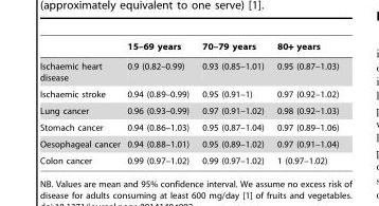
<table><thead><tr><td></td><td>15–69 years</td><td>70–79 years</td><td>80+ years</td></tr></thead><tbody><tr><td>Ischaemic heart disease</td><td>0.9 (0.82–0.99)</td><td>0.93 (0.85–1.01)</td><td>0.95 (0.87–1.03)</td></tr><tr><td>Ischaemic stroke</td><td>0.94 (0.89–0.99)</td><td>0.95 (0.91–1)</td><td>0.97 (0.92–1.02)</td></tr><tr><td>Lung cancer</td><td>0.96 (0.93–0.99)</td><td>0.97 (0.91–1.02)</td><td>0.98 (0.92–1.03)</td></tr><tr><td>Stomach cancer</td><td>0.94 (0.86–1.03)</td><td>0.95 (0.87–1.04)</td><td>0.97 (0.89–1.06)</td></tr><tr><td>Oesophageal cancer</td><td>0.94 (0.88–1.01)</td><td>0.95 (0.89–1.02)</td><td>0.97 (0.91–1.04)</td></tr><tr><td>Colon cancer</td><td>0.99 (0.97–1.02)</td><td>0.99 (0.97–1.02)</td><td>1 (0.97–1.02)</td></tr></tbody></table>